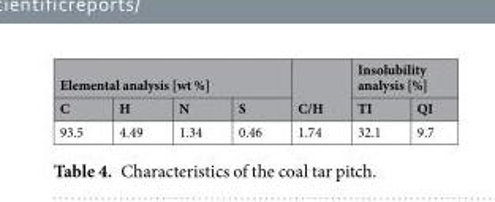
<table><thead><tr><td colspan="4">Elemental analysis [wt %]</td><td rowspan="2">C/H</td><td colspan="2">Insolubility analysis [%]</td></tr><tr><td>C</td><td>H</td><td>N</td><td>S</td><td>TI</td><td>QI</td></tr></thead><tbody><tr><td>93.5</td><td>4.49</td><td>1.34</td><td>0.46</td><td>1.74</td><td>32.1</td><td>9.7</td></tr></tbody></table>